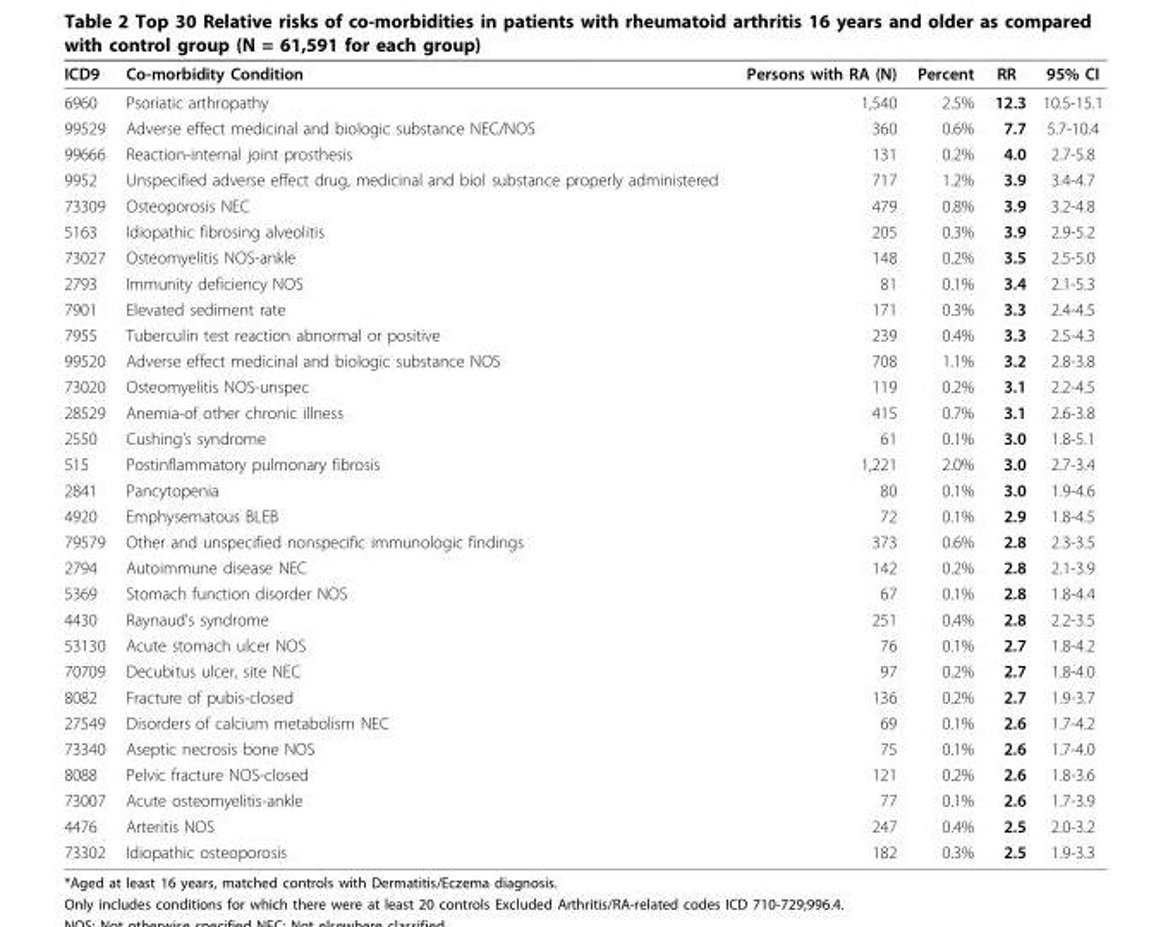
<table><thead><tr><td>ICD9</td><td>Co-morbidity Condition</td><td>Persons with RA (N)</td><td>Percent</td><td>RR</td><td>95% CI</td></tr></thead><tbody><tr><td>6960</td><td>Psoriatic arthropathy</td><td>1,540</td><td>2.5%</td><td>12.3</td><td>10.5-15.1</td></tr><tr><td>99529</td><td>Adverse effect medicinal and biologic substance NEC/NOS</td><td>360</td><td>0.6%</td><td>7.7</td><td>5.7-10.4</td></tr><tr><td>99666</td><td>Reaction-internal joint prosthesis</td><td>131</td><td>0.2%</td><td>4.0</td><td>2.7-5.8</td></tr><tr><td>9952</td><td>Unspecified adverse effect drug, medicinal and biol substance properly administered</td><td>717</td><td>1.2%</td><td>3.9</td><td>3.4-4.7</td></tr><tr><td>73309</td><td>Osteoporosis NEC</td><td>479</td><td>0.8%</td><td>3.9</td><td>3.2-4.8</td></tr><tr><td>5163</td><td>Idiopathic fibrosing alveolitis</td><td>205</td><td>0.3%</td><td>3.9</td><td>2.9-5.2</td></tr><tr><td>73027</td><td>Osteomyelitis NOS-ankle</td><td>148</td><td>0.2%</td><td>3.5</td><td>2.5-5.0</td></tr><tr><td>2793</td><td>Immunity deficiency NOS</td><td>81</td><td>0.1%</td><td>3.4</td><td>2.1-5.3</td></tr><tr><td>7901</td><td>Elevated sediment rate</td><td>171</td><td>0.3%</td><td>3.3</td><td>2.4-4.5</td></tr><tr><td>7955</td><td>Tuberculin test reaction abnormal or positive</td><td>239</td><td>0.4%</td><td>3.3</td><td>2.5-4.3</td></tr><tr><td>99520</td><td>Adverse effect medicinal and biologic substance NOS</td><td>708</td><td>1.1%</td><td>3.2</td><td>2.8-3.8</td></tr><tr><td>73020</td><td>Osteomyelitis NOS-unspec</td><td>119</td><td>0.2%</td><td>3.1</td><td>2.2-4.5</td></tr><tr><td>28529</td><td>Anemia-of other chronic illness</td><td>415</td><td>0.7%</td><td>3.1</td><td>2.6-3.8</td></tr><tr><td>2550</td><td>Cushing’s syndrome</td><td>61</td><td>0.1%</td><td>3.0</td><td>1.8-5.1</td></tr><tr><td>515</td><td>Postinflammatory pulmonary fibrosis</td><td>1,221</td><td>2.0%</td><td>3.0</td><td>2.7-3.4</td></tr><tr><td>2841</td><td>Pancytopenia</td><td>80</td><td>0.1%</td><td>3.0</td><td>1.9-4.6</td></tr><tr><td>4920</td><td>Emphysematous BLEB</td><td>72</td><td>0.1%</td><td>2.9</td><td>1.8-4.5</td></tr><tr><td>79579</td><td>Other and unspecified nonspecific immunologic findings</td><td>373</td><td>0.6%</td><td>2.8</td><td>2.3-3.5</td></tr><tr><td>2794</td><td>Autoimmune disease NEC</td><td>142</td><td>0.2%</td><td>2.8</td><td>2.1-3.9</td></tr><tr><td>5369</td><td>Stomach function disorder NOS</td><td>67</td><td>0.1%</td><td>2.8</td><td>1.8-4.4</td></tr><tr><td>4430</td><td>Raynaud’s syndrome</td><td>251</td><td>0.4%</td><td>2.8</td><td>2.2-3.5</td></tr><tr><td>53130</td><td>Acute stomach ulcer NOS</td><td>76</td><td>0.1%</td><td>2.7</td><td>1.8-4.2</td></tr><tr><td>70709</td><td>Decubitus ulcer, site NEC</td><td>97</td><td>0.2%</td><td>2.7</td><td>1.8-4.0</td></tr><tr><td>8082</td><td>Fracture of pubis-closed</td><td>136</td><td>0.2%</td><td>2.7</td><td>1.9-3.7</td></tr><tr><td>27549</td><td>Disorders of calcium metabolism NEC</td><td>69</td><td>0.1%</td><td>2.6</td><td>1.7-4.2</td></tr><tr><td>73340</td><td>Aseptic necrosis bone NOS</td><td>75</td><td>0.1%</td><td>2.6</td><td>1.7-4.0</td></tr><tr><td>8088</td><td>Pelvic fracture NOS-closed</td><td>121</td><td>0.2%</td><td>2.6</td><td>1.8-3.6</td></tr><tr><td>73007</td><td>Acute osteomyelitis-ankle</td><td>77</td><td>0.1%</td><td>2.6</td><td>1.7-3.9</td></tr><tr><td>4476</td><td>Arteritis NOS</td><td>247</td><td>0.4%</td><td>2.5</td><td>2.0-3.2</td></tr><tr><td>73302</td><td>Idiopathic osteoporosis</td><td>182</td><td>0.3%</td><td>2.5</td><td>1.9-3.3</td></tr></tbody></table>